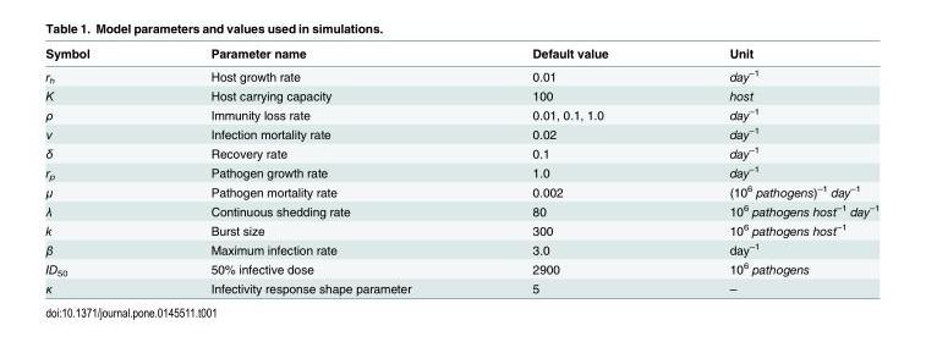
<table><thead><tr><td>Symbol</td><td>Parameter name</td><td>Default value</td><td>Unit</td></tr></thead><tbody><tr><td>r<sub>h</sub></td><td>Host growth rate</td><td>0.01</td><td>day<sup>–1</sup></td></tr><tr><td>K</td><td>Host carrying capacity</td><td>100</td><td>host</td></tr><tr><td>ρ</td><td>Immunity loss rate</td><td>0.01, 0.1, 1.0</td><td>day<sup>–1</sup></td></tr><tr><td>ν</td><td>Infection mortality rate</td><td>0.02</td><td>day<sup>–1</sup></td></tr><tr><td>δ</td><td>Recovery rate</td><td>0.1</td><td>day<sup>–1</sup></td></tr><tr><td>r<sub>p</sub></td><td>Pathogen growth rate</td><td>1.0</td><td>day<sup>–1</sup></td></tr><tr><td>μ</td><td>Pathogen mortality rate</td><td>0.002</td><td>(10<sup>6</sup> pathogens)<sup>–1</sup> day<sup>–1</sup></td></tr><tr><td>λ</td><td>Continuous shedding rate</td><td>80</td><td>10<sup>6</sup> pathogens host<sup>–1</sup> day<sup>–1</sup></td></tr><tr><td>k</td><td>Burst size</td><td>300</td><td>10<sup>6</sup> pathogens host<sup>–1</sup></td></tr><tr><td>β</td><td>Maximum infection rate</td><td>3.0</td><td>day<sup>–1</sup></td></tr><tr><td>ID<sub>50</sub></td><td>50% infective dose</td><td>2900</td><td>10<sup>6</sup> pathogens</td></tr><tr><td>κ</td><td>Infectivity response shape parameter</td><td>5</td><td>–</td></tr></tbody></table>